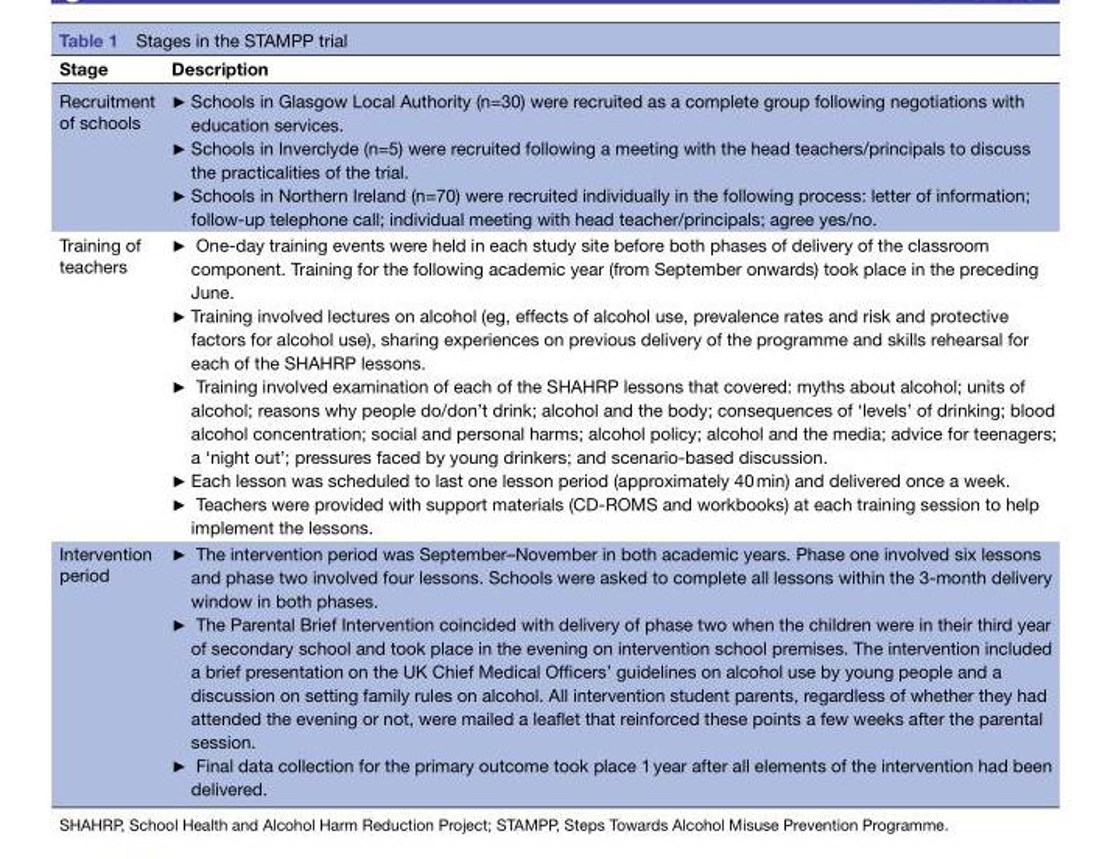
<table><thead><tr><td>Stage</td><td>Description</td></tr></thead><tbody><tr><td>Recruitment of schools</td><td>► Schools in Glasgow Local Authority (n=30) were recruited as a complete group following negotiations with education services. ► Schools in Inverclyde (n=5) were recruited following a meeting with the head teachers/principals to discuss the practicalities of the trial. ► Schools in Northern Ireland (n=70) were recruited individually in the following process: letter of information; follow-up telephone call; individual meeting with head teacher/principals; agree yes/no.</td></tr><tr><td>Training of teachers</td><td>► One-day training events were held in each study site before both phases of delivery of the classroom component. Training for the following academic year (from September onwards) took place in the preceding June. ► Training involved lectures on alcohol (eg, effects of alcohol use, prevalence rates and risk and protective factors for alcohol use), sharing experiences on previous delivery of the programme and skills rehearsal for each of the SHAHRP lessons. ► Training involved examination of each of the SHAHRP lessons that covered: myths about alcohol; units of alcohol; reasons why people do/don’t drink; alcohol and the body; consequences of ‘levels’ of drinking; blood alcohol concentration; social and personal harms; alcohol policy; alcohol and the media; advice for teenagers; a ‘night out’; pressures faced by young drinkers; and scenario-based discussion. ► Each lesson was scheduled to last one lesson period (approximately 40 min) and delivered once a week. ► Teachers were provided with support materials (CD-ROMS and workbooks) at each training session to help implement the lessons.</td></tr><tr><td>Intervention period</td><td>► The intervention period was September–November in both academic years. Phase one involved six lessons and phase two involved four lessons. Schools were asked to complete all lessons within the 3-month delivery window in both phases. ► The Parental Brief Intervention coincided with delivery of phase two when the children were in their third year of secondary school and took place in the evening on intervention school premises. The intervention included a brief presentation on the UK Chief Medical Officers’ guidelines on alcohol use by young people and a discussion on setting family rules on alcohol. All intervention student parents, regardless of whether they had attended the evening or not, were mailed a leaflet that reinforced these points a few weeks after the parental session. ► Final data collection for the primary outcome took place 1 year after all elements of the intervention had been delivered.</td></tr></tbody></table>